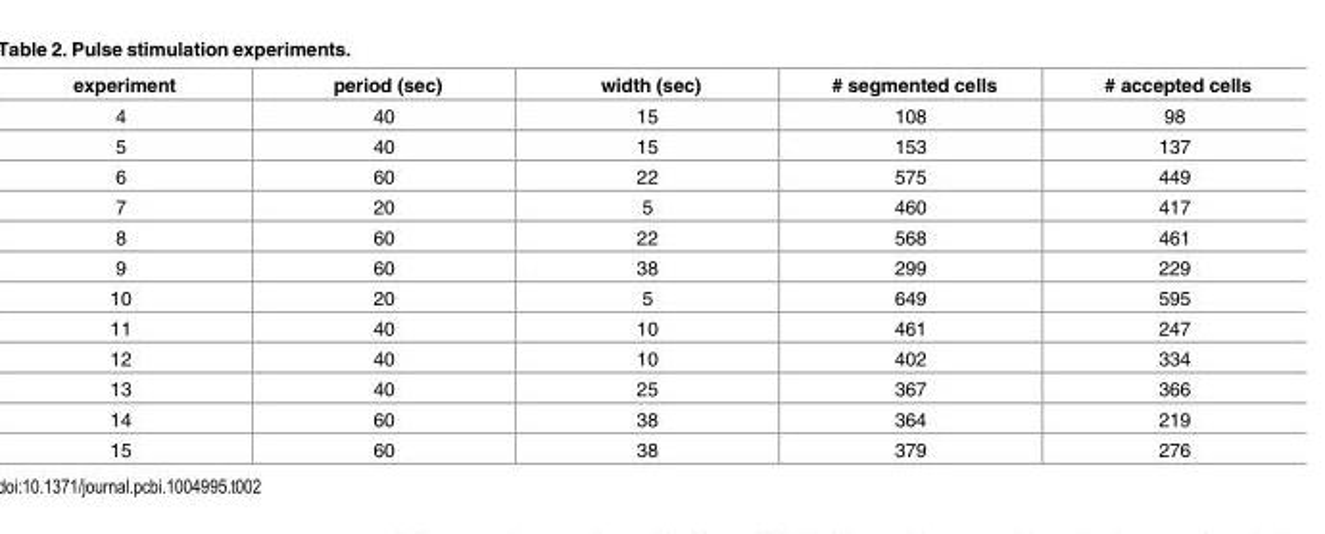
<table><thead><tr><td>experiment</td><td>period (sec)</td><td>width (sec)</td><td># segmented cells</td><td># accepted cells</td></tr></thead><tbody><tr><td>4</td><td>40</td><td>15</td><td>108</td><td>98</td></tr><tr><td>5</td><td>40</td><td>15</td><td>153</td><td>137</td></tr><tr><td>6</td><td>60</td><td>22</td><td>575</td><td>449</td></tr><tr><td>7</td><td>20</td><td>5</td><td>460</td><td>417</td></tr><tr><td>8</td><td>60</td><td>22</td><td>568</td><td>461</td></tr><tr><td>9</td><td>60</td><td>38</td><td>299</td><td>229</td></tr><tr><td>10</td><td>20</td><td>5</td><td>649</td><td>595</td></tr><tr><td>11</td><td>40</td><td>10</td><td>461</td><td>247</td></tr><tr><td>12</td><td>40</td><td>10</td><td>402</td><td>334</td></tr><tr><td>13</td><td>40</td><td>25</td><td>367</td><td>366</td></tr><tr><td>14</td><td>60</td><td>38</td><td>364</td><td>219</td></tr><tr><td>15</td><td>60</td><td>38</td><td>379</td><td>276</td></tr></tbody></table>